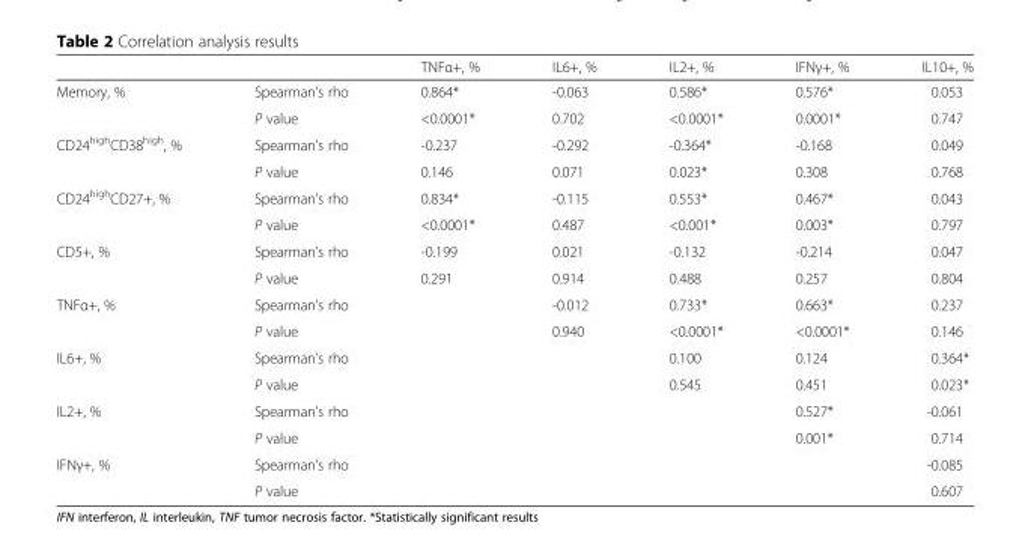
<table><thead><tr><td></td><td></td><td>TNFα+, %</td><td>IL6+, %</td><td>IL2+, %</td><td>IFNγ+, %</td><td>IL10+, %</td></tr></thead><tbody><tr><td rowspan="2">Memory, %</td><td>Spearman’s rho</td><td>0.864*</td><td>-0.063</td><td>0.586*</td><td>0.576*</td><td>0.053</td></tr><tr><td>P value</td><td>&lt;0.0001*</td><td>0.702</td><td>&lt;0.0001*</td><td>0.0001*</td><td>0.747</td></tr><tr><td rowspan="2">CD24<sup>high</sup>CD38<sup>high</sup>, %</td><td>Spearman’s rho</td><td>-0.237</td><td>-0.292</td><td>-0.364*</td><td>-0.168</td><td>0.049</td></tr><tr><td>P value</td><td>0.146</td><td>0.071</td><td>0.023*</td><td>0.308</td><td>0.768</td></tr><tr><td rowspan="2">CD24<sup>high</sup>CD27+, %</td><td>Spearman’s rho</td><td>0.834*</td><td>-0.115</td><td>0.553*</td><td>0.467*</td><td>0.043</td></tr><tr><td>P value</td><td>&lt;0.0001*</td><td>0.487</td><td>&lt;0.001*</td><td>0.003*</td><td>0.797</td></tr><tr><td rowspan="2">CD5+, %</td><td>Spearman’s rho</td><td>-0.199</td><td>0.021</td><td>-0.132</td><td>-0.214</td><td>0.047</td></tr><tr><td>P value</td><td>0.291</td><td>0.914</td><td>0.488</td><td>0.257</td><td>0.804</td></tr><tr><td rowspan="2">TNFα+, %</td><td>Spearman’s rho</td><td></td><td>-0.012</td><td>0.733*</td><td>0.663*</td><td>0.237</td></tr><tr><td>P value</td><td></td><td>0.940</td><td>&lt;0.0001*</td><td>&lt;0.0001*</td><td>0.146</td></tr><tr><td rowspan="2">IL6+, %</td><td>Spearman’s rho</td><td></td><td></td><td>0.100</td><td>0.124</td><td>0.364*</td></tr><tr><td>P value</td><td></td><td></td><td>0.545</td><td>0.451</td><td>0.023*</td></tr><tr><td rowspan="2">IL2+, %</td><td>Spearman’s rho</td><td></td><td></td><td></td><td>0.527*</td><td>-0.061</td></tr><tr><td>P value</td><td></td><td></td><td></td><td>0.001*</td><td>0.714</td></tr><tr><td rowspan="2">IFNγ+, %</td><td>Spearman’s rho</td><td></td><td></td><td></td><td></td><td>-0.085</td></tr><tr><td>P value</td><td></td><td></td><td></td><td></td><td>0.607</td></tr></tbody></table>